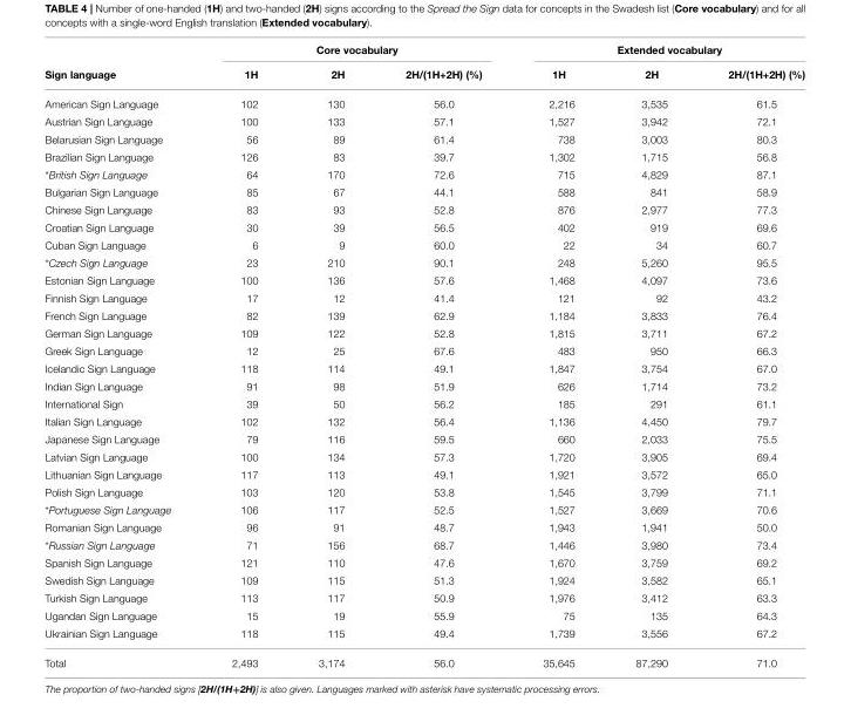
<table><thead><tr><td rowspan="2">Sign language</td><td colspan="3">Core vocabulary</td><td colspan="3">Extended vocabulary</td></tr><tr><td>1H</td><td>2H</td><td>2H/(1H+2H) (%)</td><td>1H</td><td>2H</td><td>2H/(1H+2H) (%)</td></tr></thead><tbody><tr><td>American Sign Language</td><td>102</td><td>130</td><td>56.0</td><td>2,216</td><td>3,535</td><td>61.5</td></tr><tr><td>Austrian Sign Language</td><td>100</td><td>133</td><td>57.1</td><td>1,527</td><td>3,942</td><td>72.1</td></tr><tr><td>Belarusian Sign Language</td><td>56</td><td>89</td><td>61.4</td><td>738</td><td>3,003</td><td>80.3</td></tr><tr><td>Brazilian Sign Language</td><td>126</td><td>83</td><td>39.7</td><td>1,302</td><td>1,715</td><td>56.8</td></tr><tr><td>*British Sign Language</td><td>64</td><td>170</td><td>72.6</td><td>715</td><td>4,829</td><td>87.1</td></tr><tr><td>Bulgarian Sign Language</td><td>85</td><td>67</td><td>44.1</td><td>588</td><td>841</td><td>58.9</td></tr><tr><td>Chinese Sign Language</td><td>83</td><td>93</td><td>52.8</td><td>876</td><td>2,977</td><td>77.3</td></tr><tr><td>Croatian Sign Language</td><td>30</td><td>39</td><td>56.5</td><td>402</td><td>919</td><td>69.6</td></tr><tr><td>Cuban Sign Language</td><td>6</td><td>9</td><td>60.0</td><td>22</td><td>34</td><td>60.7</td></tr><tr><td>*Czech Sign Language</td><td>23</td><td>210</td><td>90.1</td><td>248</td><td>5,260</td><td>95.5</td></tr><tr><td>Estonian Sign Language</td><td>100</td><td>136</td><td>57.6</td><td>1,468</td><td>4,097</td><td>73.6</td></tr><tr><td>Finnish Sign Language</td><td>17</td><td>12</td><td>41.4</td><td>121</td><td>92</td><td>43.2</td></tr><tr><td>French Sign Language</td><td>82</td><td>139</td><td>62.9</td><td>1,184</td><td>3,833</td><td>76.4</td></tr><tr><td>German Sign Language</td><td>109</td><td>122</td><td>52.8</td><td>1,815</td><td>3,711</td><td>67.2</td></tr><tr><td>Greek Sign Language</td><td>12</td><td>25</td><td>67.6</td><td>483</td><td>950</td><td>66.3</td></tr><tr><td>Icelandic Sign Language</td><td>118</td><td>114</td><td>49.1</td><td>1,847</td><td>3,754</td><td>67.0</td></tr><tr><td>Indian Sign Language</td><td>91</td><td>98</td><td>51.9</td><td>626</td><td>1,714</td><td>73.2</td></tr><tr><td>International Sign</td><td>39</td><td>50</td><td>56.2</td><td>185</td><td>291</td><td>61.1</td></tr><tr><td>Italian Sign Language</td><td>102</td><td>132</td><td>56.4</td><td>1,136</td><td>4,450</td><td>79.7</td></tr><tr><td>Japanese Sign Language</td><td>79</td><td>116</td><td>59.5</td><td>660</td><td>2,033</td><td>75.5</td></tr><tr><td>Latvian Sign Language</td><td>100</td><td>134</td><td>57.3</td><td>1,720</td><td>3,905</td><td>69.4</td></tr><tr><td>Lithuanian Sign Language</td><td>117</td><td>113</td><td>49.1</td><td>1,921</td><td>3,572</td><td>65.0</td></tr><tr><td>Polish Sign Language</td><td>103</td><td>120</td><td>53.8</td><td>1,545</td><td>3,799</td><td>71.1</td></tr><tr><td>*Portuguese Sign Language</td><td>106</td><td>117</td><td>52.5</td><td>1,527</td><td>3,669</td><td>70.6</td></tr><tr><td>Romanian Sign Language</td><td>96</td><td>91</td><td>48.7</td><td>1,943</td><td>1,941</td><td>50.0</td></tr><tr><td>*Russian Sign Language</td><td>71</td><td>156</td><td>68.7</td><td>1,446</td><td>3,980</td><td>73.4</td></tr><tr><td>Spanish Sign Language</td><td>121</td><td>110</td><td>47.6</td><td>1,670</td><td>3,759</td><td>69.2</td></tr><tr><td>Swedish Sign Language</td><td>109</td><td>115</td><td>51.3</td><td>1,924</td><td>3,582</td><td>65.1</td></tr><tr><td>Turkish Sign Language</td><td>113</td><td>117</td><td>50.9</td><td>1,976</td><td>3,412</td><td>63.3</td></tr><tr><td>Ugandan Sign Language</td><td>15</td><td>19</td><td>55.9</td><td>75</td><td>135</td><td>64.3</td></tr><tr><td>Ukrainian Sign Language</td><td>118</td><td>115</td><td>49.4</td><td>1,739</td><td>3,556</td><td>67.2</td></tr><tr><td>Total</td><td>2,493</td><td>3,174</td><td>56.0</td><td>35,645</td><td>87,290</td><td>71.0</td></tr></tbody></table>